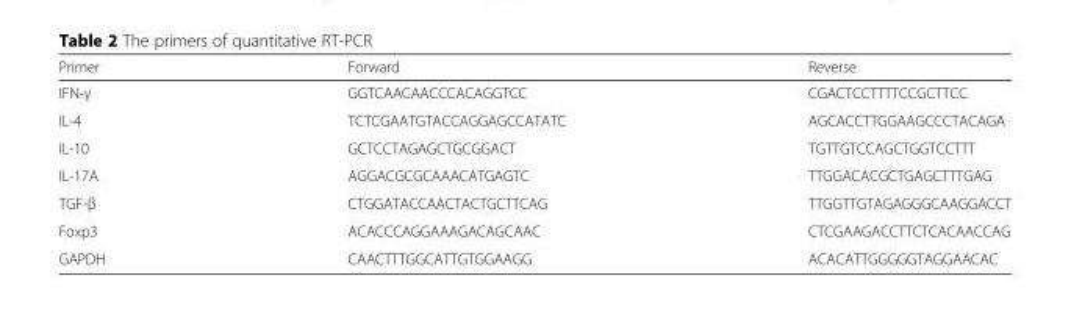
<table><thead><tr><td>Primer</td><td>Forward</td><td>Reverse</td></tr></thead><tbody><tr><td>IFN-γ</td><td>GGTCAACAACCCACAGGTCC</td><td>CGACTCCTTTTCCGCTTCC</td></tr><tr><td>IL-4</td><td>TCTCGAATGTACCAGGAGCCATATC</td><td>AGCACCTTGGAAGCCCTACAGA</td></tr><tr><td>IL-10</td><td>GCTCCTAGAGCTGCGGACT</td><td>TGTTGTCCAGCTGGTCCTTT</td></tr><tr><td>IL-17A</td><td>AGGACGCGCAAACATGAGTC</td><td>TTGGACACGCTGAGCTTTGAG</td></tr><tr><td>TGF-β</td><td>CTGGATACCAACTACTGCTTCAG</td><td>TTGGTTGTAGAGGGCAAGGACCT</td></tr><tr><td>Foxp3</td><td>ACACCCAGGAAAGACAGCAAC</td><td>CTCGAAGACCTTCTCACAACCAG</td></tr><tr><td>GAPDH</td><td>CAACTTTGGCATTGTGGAAGG</td><td>ACACATTGGGGGTAGGAACAC</td></tr></tbody></table>